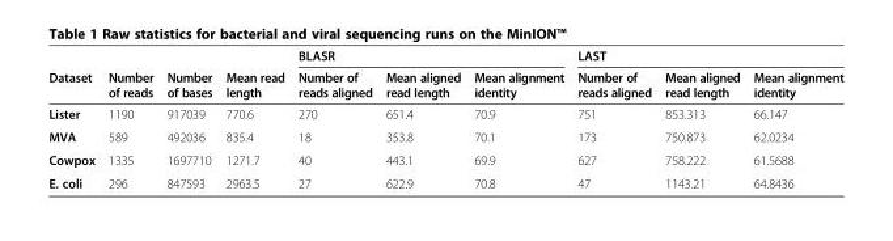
<table><thead><tr><td rowspan="2">Dataset</td><td rowspan="2">Number of reads</td><td rowspan="2">Number of bases</td><td rowspan="2">Mean read length</td><td colspan="3">BLASR</td><td colspan="3">LAST</td></tr><tr><td>Number of reads aligned</td><td>Mean aligned read length</td><td>Mean alignment identity</td><td>Number of reads aligned</td><td>Mean aligned read length</td><td>Mean alignment identity</td></tr></thead><tbody><tr><td>Lister</td><td>1190</td><td>917039</td><td>770.6</td><td>270</td><td>651.4</td><td>70.9</td><td>751</td><td>853.313</td><td>66.147</td></tr><tr><td>MVA</td><td>589</td><td>492036</td><td>835.4</td><td>18</td><td>353.8</td><td>70.1</td><td>173</td><td>750.873</td><td>62.0234</td></tr><tr><td>Cowpox</td><td>1335</td><td>1697710</td><td>1271.7</td><td>40</td><td>443.1</td><td>69.9</td><td>627</td><td>758.222</td><td>61.5688</td></tr><tr><td>E. coli</td><td>296</td><td>847593</td><td>2963.5</td><td>27</td><td>622.9</td><td>70.8</td><td>47</td><td>1143.21</td><td>64.8436</td></tr></tbody></table>